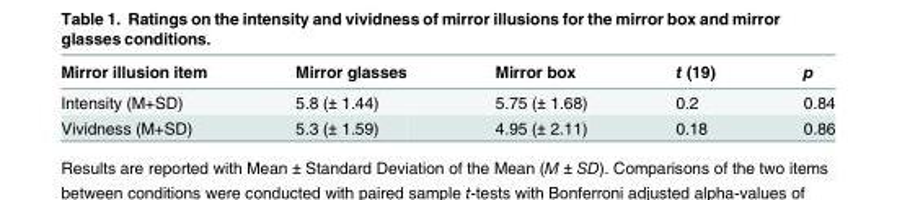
<table><thead><tr><td>Mirror illusion item</td><td>Mirror glasses</td><td>Mirror box</td><td>t (19)</td><td>p</td></tr></thead><tbody><tr><td>Intensity (M+SD)</td><td>5.8 (± 1.44)</td><td>5.75 (± 1.68)</td><td>0.2</td><td>0.84</td></tr><tr><td>Vividness (M+SD)</td><td>5.3 (± 1.59)</td><td>4.95 (± 2.11)</td><td>0.18</td><td>0.86</td></tr></tbody></table>